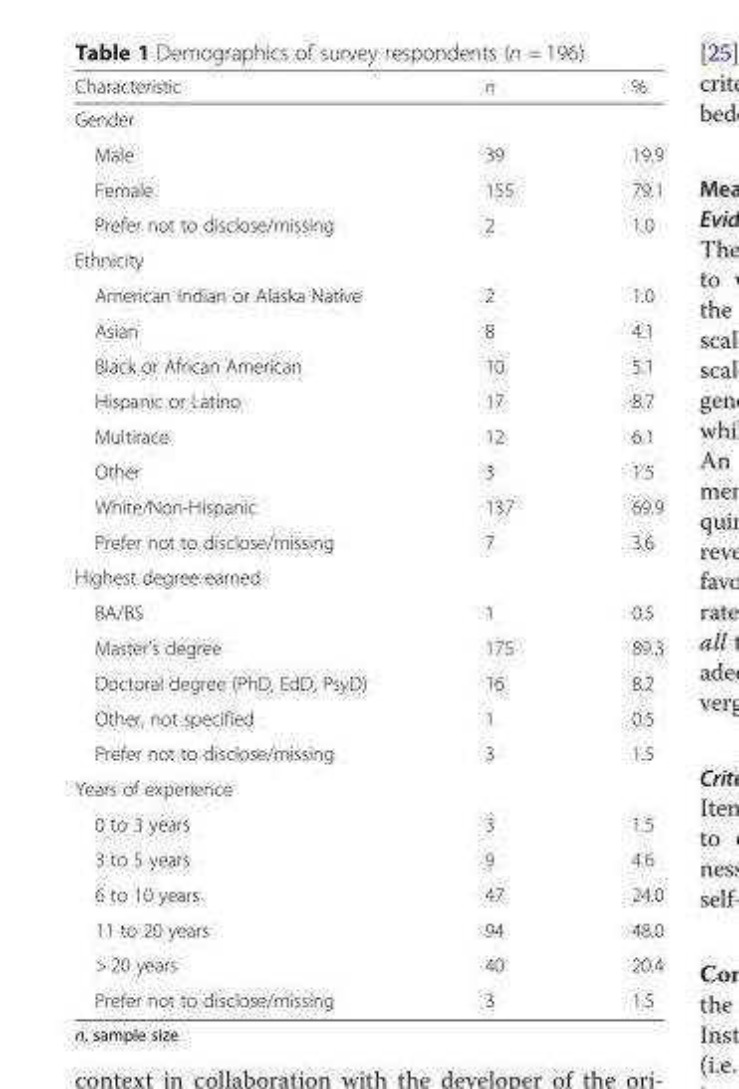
<table><thead><tr><td>Characteristic</td><td>n</td><td>%</td></tr></thead><tbody><tr><td colspan="3">Gender</td></tr><tr><td>Male</td><td>39</td><td>19.9</td></tr><tr><td>Female</td><td>155</td><td>79.1</td></tr><tr><td>Prefer not to disclose/missing</td><td>2</td><td>1.0</td></tr><tr><td colspan="3">Ethnicity</td></tr><tr><td>American Indian or Alaska Native</td><td>2</td><td>1.0</td></tr><tr><td>Asian</td><td>8</td><td>4.1</td></tr><tr><td>Black or African American</td><td>10</td><td>5.1</td></tr><tr><td>Hispanic or Latino</td><td>17</td><td>8.7</td></tr><tr><td>Multirace</td><td>12</td><td>6.1</td></tr><tr><td>Other</td><td>3</td><td>1.5</td></tr><tr><td>White/Non-Hispanic</td><td>137</td><td>69.9</td></tr><tr><td>Prefer not to disclose/missing</td><td>7</td><td>3.6</td></tr><tr><td colspan="3">Highest degree earned</td></tr><tr><td>BA/BS</td><td>1</td><td>0.5</td></tr><tr><td>Master’s degree</td><td>175</td><td>89.3</td></tr><tr><td>Doctoral degree (PhD, EdD, PsyD)</td><td>16</td><td>8.2</td></tr><tr><td>Other, not specified</td><td>1</td><td>0.5</td></tr><tr><td>Prefer not to disclose/missing</td><td>3</td><td>1.5</td></tr><tr><td colspan="3">Years of experience</td></tr><tr><td>0 to 3 years</td><td>3</td><td>1.5</td></tr><tr><td>3 to 5 years</td><td>9</td><td>4.6</td></tr><tr><td>6 to 10 years</td><td>47</td><td>24.0</td></tr><tr><td>11 to 20 years</td><td>94</td><td>48.0</td></tr><tr><td>&gt; 20 years</td><td>40</td><td>20.4</td></tr><tr><td>Prefer not to disclose/missing</td><td>3</td><td>1.5</td></tr></tbody></table>